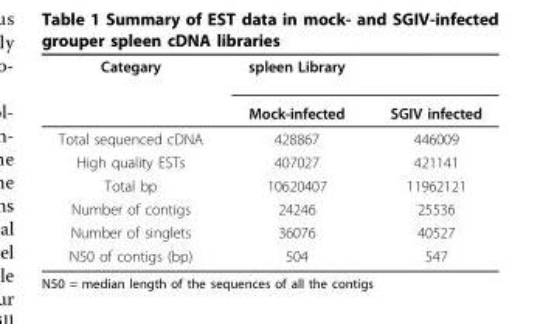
<table><thead><tr><td rowspan="2">Categary</td><td rowspan="2">spleen Library Mock-infected</td><td rowspan="2">SGIV infected</td></tr><tr></tr></thead><tbody><tr><td>Total sequenced cDNA</td><td>428867</td><td>446009</td></tr><tr><td>High quality ESTs</td><td>407027</td><td>421141</td></tr><tr><td>Total bp</td><td>10620407</td><td>11962121</td></tr><tr><td>Number of contigs</td><td>24246</td><td>25536</td></tr><tr><td>Number of singlets</td><td>36076</td><td>40527</td></tr><tr><td>N50 of contigs (bp)</td><td>504</td><td>547</td></tr></tbody></table>